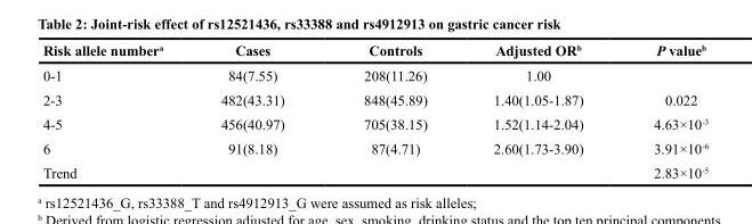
<table><thead><tr><td>Risk allele number<sup>a</sup></td><td>Cases</td><td>Controls</td><td>Adjusted OR<sup>b</sup></td><td>P value<sup>b</sup></td></tr></thead><tbody><tr><td>0-1</td><td>84(7.55)</td><td>208(11.26)</td><td>1.00</td><td></td></tr><tr><td>2-3</td><td>482(43.31)</td><td>848(45.89)</td><td>1.40(1.05-1.87)</td><td>0.022</td></tr><tr><td>4-5</td><td>456(40.97)</td><td>705(38.15)</td><td>1.52(1.14-2.04)</td><td>4.63×10<sup>-3</sup></td></tr><tr><td>6</td><td>91(8.18)</td><td>87(4.71)</td><td>2.60(1.73-3.90)</td><td>3.91×10<sup>-6</sup></td></tr><tr><td>Trend</td><td></td><td></td><td></td><td>2.83×10<sup>-5</sup></td></tr></tbody></table>